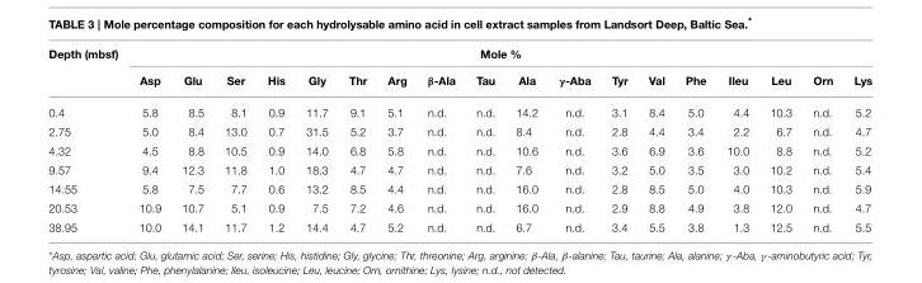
<table><thead><tr><td rowspan="2">Depth (mbsf)</td><td colspan="18">Mole %</td></tr><tr><td>Asp</td><td>Glu</td><td>Ser</td><td>His</td><td>Gly</td><td>Thr</td><td>Arg</td><td>β-Ala</td><td>Tau</td><td>Ala</td><td>γ-Aba</td><td>Tyr</td><td>Val</td><td>Phe</td><td>Ileu</td><td>Leu</td><td>Orn</td><td>Lys</td></tr></thead><tbody><tr><td>0.4</td><td>5.8</td><td>8.5</td><td>8.1</td><td>0.9</td><td>11.7</td><td>9.1</td><td>5.1</td><td>n.d.</td><td>n.d.</td><td>14.2</td><td>n.d.</td><td>3.1</td><td>8.4</td><td>5.0</td><td>4.4</td><td>10.3</td><td>n.d.</td><td>5.2</td></tr><tr><td>2.75</td><td>5.0</td><td>8.4</td><td>13.0</td><td>0.7</td><td>31.5</td><td>5.2</td><td>3.7</td><td>n.d.</td><td>n.d.</td><td>8.4</td><td>n.d.</td><td>2.8</td><td>4.4</td><td>3.4</td><td>2.2</td><td>6.7</td><td>n.d.</td><td>4.7</td></tr><tr><td>4.32</td><td>4.5</td><td>8.8</td><td>10.5</td><td>0.9</td><td>14.0</td><td>6.8</td><td>5.8</td><td>n.d.</td><td>n.d.</td><td>10.6</td><td>n.d.</td><td>3.6</td><td>6.9</td><td>3.6</td><td>10.0</td><td>8.8</td><td>n.d.</td><td>5.2</td></tr><tr><td>9.57</td><td>9.4</td><td>12.3</td><td>11.8</td><td>1.0</td><td>18.3</td><td>4.7</td><td>4.7</td><td>n.d.</td><td>n.d.</td><td>7.6</td><td>n.d.</td><td>3.2</td><td>5.0</td><td>3.5</td><td>3.0</td><td>10.2</td><td>n.d.</td><td>5.4</td></tr><tr><td>14.55</td><td>5.8</td><td>7.5</td><td>7.7</td><td>0.6</td><td>13.2</td><td>8.5</td><td>4.4</td><td>n.d.</td><td>n.d.</td><td>16.0</td><td>n.d.</td><td>2.8</td><td>8.5</td><td>5.0</td><td>4.0</td><td>10.3</td><td>n.d.</td><td>5.9</td></tr><tr><td>20.53</td><td>10.9</td><td>10.7</td><td>5.1</td><td>0.9</td><td>7.5</td><td>7.2</td><td>4.6</td><td>n.d.</td><td>n.d.</td><td>16.0</td><td>n.d.</td><td>2.9</td><td>8.8</td><td>4.9</td><td>3.8</td><td>12.0</td><td>n.d.</td><td>4.7</td></tr><tr><td>38.95</td><td>10.0</td><td>14.1</td><td>11.7</td><td>1.2</td><td>14.4</td><td>4.7</td><td>5.2</td><td>n.d.</td><td>n.d.</td><td>6.7</td><td>n.d.</td><td>3.4</td><td>5.5</td><td>3.8</td><td>1.3</td><td>12.5</td><td>n.d.</td><td>5.5</td></tr></tbody></table>